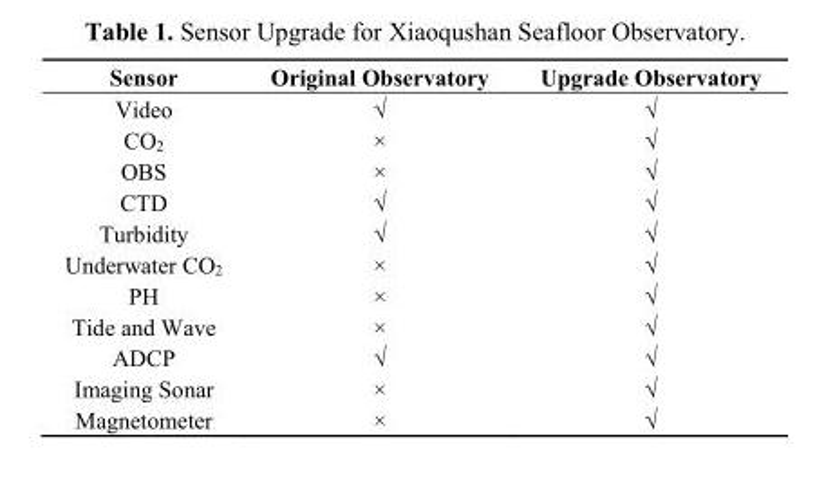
<table><thead><tr><td>Sensor</td><td>Original Observatory</td><td>Upgrade Observatory</td></tr></thead><tbody><tr><td>Video</td><td>√</td><td>√</td></tr><tr><td>CO<sub>2</sub></td><td>×</td><td>√</td></tr><tr><td>OBS</td><td>×</td><td>√</td></tr><tr><td>CTD</td><td>√</td><td>√</td></tr><tr><td>Turbidity</td><td>√</td><td>√</td></tr><tr><td>Underwater CO<sub>2</sub></td><td>×</td><td>√</td></tr><tr><td>PH</td><td>×</td><td>√</td></tr><tr><td>Tide and Wave</td><td>×</td><td>√</td></tr><tr><td>ADCP</td><td>√</td><td>√</td></tr><tr><td>Imaging Sonar</td><td>×</td><td>√</td></tr><tr><td>Magnetometer</td><td>×</td><td>√</td></tr></tbody></table>